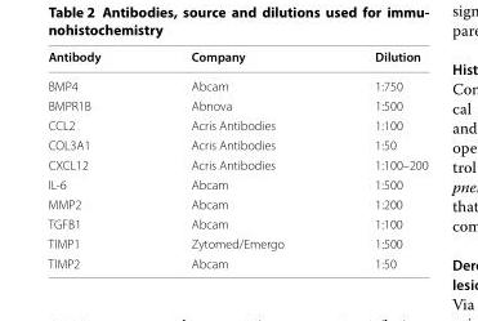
<table><thead><tr><td>Antibody</td><td>Company</td><td>Dilution</td></tr></thead><tbody><tr><td>BMP4</td><td>Abcam</td><td>1:750</td></tr><tr><td>BMPR1B</td><td>Abnova</td><td>1:500</td></tr><tr><td>CCL2</td><td>Acris Antibodies</td><td>1:100</td></tr><tr><td>COL3A1</td><td>Acris Antibodies</td><td>1:50</td></tr><tr><td>CXCL12</td><td>Acris Antibodies</td><td>1:100–200</td></tr><tr><td>IL-6</td><td>Abcam</td><td>1:500</td></tr><tr><td>MMP2</td><td>Abcam</td><td>1:200</td></tr><tr><td>TGFB1</td><td>Abcam</td><td>1:100</td></tr><tr><td>TIMP1</td><td>Zytomed/Emergo</td><td>1:500</td></tr><tr><td>TIMP2</td><td>Abcam</td><td>1:50</td></tr></tbody></table>